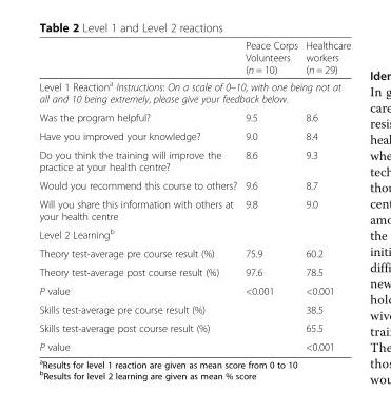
<table><thead><tr><td></td><td>Peace Corps Volunteers (n = 10)</td><td>Healthcare workers (n = 29)</td></tr></thead><tbody><tr><td colspan="3">Level 1 Reaction<sup>a</sup> Instructions: On a scale of 0–10, with one being not at all and 10 being extremely, please give your feedback below.</td></tr><tr><td>Was the program helpful?</td><td>9.5</td><td>8.6</td></tr><tr><td>Have you improved your knowledge?</td><td>9.0</td><td>8.4</td></tr><tr><td>Do you think the training will improve the practice at your health centre?</td><td>8.6</td><td>9.3</td></tr><tr><td>Would you recommend this course to others?</td><td>9.6</td><td>8.7</td></tr><tr><td>Will you share this information with others at your health centre</td><td>9.8</td><td>9.0</td></tr><tr><td colspan="3">Level 2 Learning<sup>b</sup></td></tr><tr><td>Theory test-average pre course result (%)</td><td>75.9</td><td>60.2</td></tr><tr><td>Theory test-average post course result (%)</td><td>97.6</td><td>78.5</td></tr><tr><td>P value</td><td>&lt;0.001</td><td>&lt;0.001</td></tr><tr><td>Skills test-average pre course result (%)</td><td></td><td>38.5</td></tr><tr><td>Skills test-average post course result (%)</td><td></td><td>65.5</td></tr><tr><td>P value</td><td></td><td>&lt;0.001</td></tr></tbody></table>